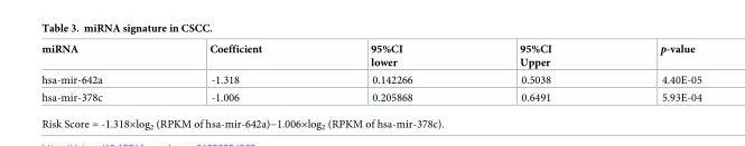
<table><thead><tr><td>miRNA</td><td>Coefficient</td><td>95%CI lower</td><td>95%CI Upper</td><td>p-value</td></tr></thead><tbody><tr><td>hsa-mir-642a</td><td>-1.318</td><td>0.142266</td><td>0.5038</td><td>4.40E-05</td></tr><tr><td>hsa-mir-378c</td><td>-1.006</td><td>0.205868</td><td>0.6491</td><td>5.93E-04</td></tr></tbody></table>